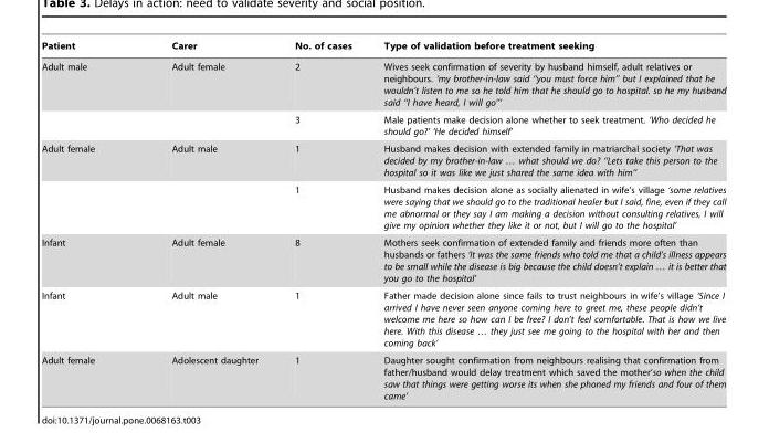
<table><thead><tr><td>Patient</td><td>Carer</td><td>No. of cases</td><td>Type of validation before treatment seeking</td></tr></thead><tbody><tr><td rowspan="2">Adult male</td><td>Adult female</td><td>2</td><td>Wives seek confirmation of severity by husband himself, adult relatives or neighbours. ‘my brother-in-law said ‘‘you must force him’’ but I explained that he wouldn’t listen to me so he told him that he should go to hospital. so he my husband said ‘‘I have heard, I will go’’’</td></tr><tr><td></td><td>3</td><td>Male patients make decision alone whether to seek treatment. ‘Who decided he should go?’ ‘He decided himself’</td></tr><tr><td rowspan="2">Adult female</td><td>Adult male</td><td>1</td><td>Husband makes decision with extended family in matriarchal society ‘That was decided by my brother-in-law … what should we do? ‘‘Lets take this person to the hospital so it was like we just shared the same idea with him’’</td></tr><tr><td></td><td>1</td><td>Husband makes decision alone as socially alienated in wife’s village ‘some relatives were saying that we should go to the traditional healer but I said, fine, even if they call me abnormal or they say I am making a decision without consulting relatives, I will give my opinion whether they like it or not, but I will go to the hospital’</td></tr><tr><td>Infant</td><td>Adult female</td><td>8</td><td>Mothers seek confirmation of extended family and friends more often than husbands or fathers ‘It was the same friends who told me that a child’s illness appears to be small while the disease is big because the child doesn’t explain … it is better that you go to the hospital’</td></tr><tr><td>Infant</td><td>Adult male</td><td>1</td><td>Father made decision alone since fails to trust neighbours in wife’s village ‘Since I arrived I have never seen anyone coming here to greet me, these people didn’t welcome me here so how can I be free? I don’t feel comfortable. That is how we live here. With this disease … they just see me going to the hospital with her and then coming back’</td></tr><tr><td>Adult female</td><td>Adolescent daughter</td><td>1</td><td>Daughter sought confirmation from neighbours realising that confirmation from father/husband would delay treatment which saved the mother‘so when the child saw that things were getting worse its when she phoned my friends and four of them came’</td></tr></tbody></table>